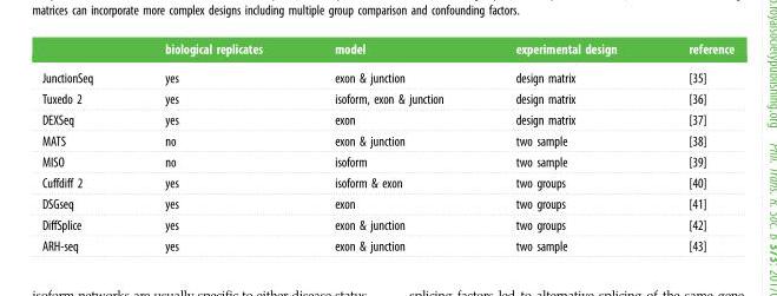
<table><thead><tr><td></td><td>biological replicates</td><td>model</td><td>experimental design</td><td>reference</td></tr></thead><tbody><tr><td>JunctionSeq</td><td>yes</td><td>exon &amp; junction</td><td>design matrix</td><td>[35]</td></tr><tr><td>Tuxedo 2</td><td>yes</td><td>isoform, exon &amp; junction</td><td>design matrix</td><td>[36]</td></tr><tr><td>DEXSeq</td><td>yes</td><td>exon</td><td>design matrix</td><td>[37]</td></tr><tr><td>MATS</td><td>no</td><td>exon &amp; junction</td><td>two sample</td><td>[38]</td></tr><tr><td>MISO</td><td>no</td><td>isoform</td><td>two sample</td><td>[39]</td></tr><tr><td>Cuffdiff 2</td><td>yes</td><td>isoform &amp; exon</td><td>two groups</td><td>[40]</td></tr><tr><td>DSGseq</td><td>yes</td><td>exon</td><td>two groups</td><td>[41]</td></tr><tr><td>DiffSplice</td><td>yes</td><td>exon &amp; junction</td><td>two groups</td><td>[42]</td></tr><tr><td>ARH-seq</td><td>yes</td><td>exon &amp; junction</td><td>two sample</td><td>[43]</td></tr></tbody></table>